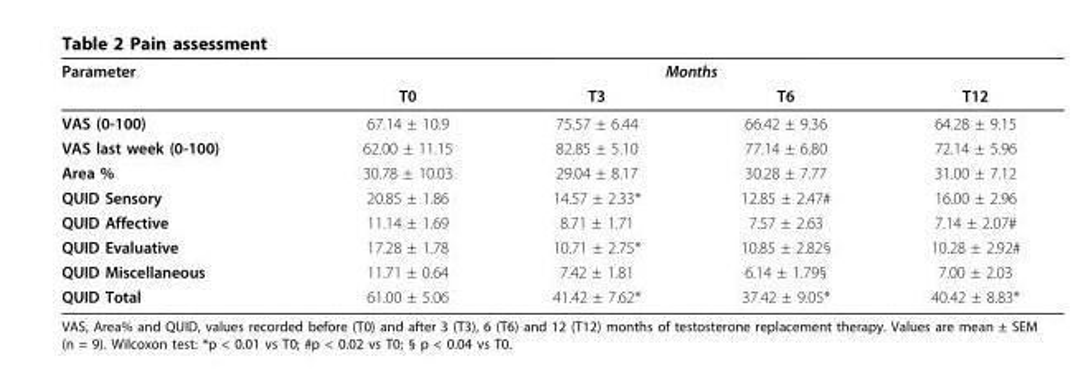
<table><thead><tr><td rowspan="2">Parameter</td><td colspan="4">Months</td></tr><tr><td>T0</td><td>T3</td><td>T6</td><td>T12</td></tr></thead><tbody><tr><td>VAS (0-100)</td><td>67.14 ± 10.9</td><td>75.57 ± 6.44</td><td>66.42 ± 9.36</td><td>64.28 ± 9.15</td></tr><tr><td>VAS last week (0-100)</td><td>62.00 ± 11.15</td><td>82.85 ± 5.10</td><td>77.14 ± 6.80</td><td>72.14 ± 5.96</td></tr><tr><td>Area %</td><td>30.78 ± 10.03</td><td>29.04 ± 8.17</td><td>30.28 ± 7.77</td><td>31.00 ± 7.12</td></tr><tr><td>QUID Sensory</td><td>20.85 ± 1.86</td><td>14.57 ± 2.33*</td><td>12.85 ± 2.47#</td><td>16.00 ± 2.96</td></tr><tr><td>QUID Affective</td><td>11.14 ± 1.69</td><td>8.71 ± 1.71</td><td>7.57 ± 2.63</td><td>7.14 ± 2.07#</td></tr><tr><td>QUID Evaluative</td><td>17.28 ± 1.78</td><td>10.71 ± 2.75*</td><td>10.85 ± 2.82§</td><td>10.28 ± 2.92#</td></tr><tr><td>QUID Miscellaneous</td><td>11.71 ± 0.64</td><td>7.42 ± 1.81</td><td>6.14 ± 1.79§</td><td>7.00 ± 2.03</td></tr><tr><td>QUID Total</td><td>61.00 ± 5.06</td><td>41.42 ± 7.62*</td><td>37.42 ± 9.05*</td><td>40.42 ± 8.83*</td></tr></tbody></table>